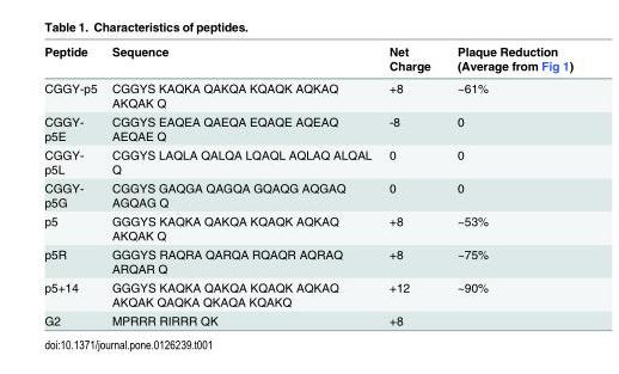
<table><thead><tr><td>Peptide</td><td>Sequence</td><td>Net Charge</td><td>Plaque Reduction (Average from Fig 1)</td></tr></thead><tbody><tr><td>CGGY-p5</td><td>CGGYS KAQKA QAKQA KQAQK AQKAQ AKQAK Q</td><td>+8</td><td>~61%</td></tr><tr><td>CGGY- p5E</td><td>CGGYS EAQEA QAEQA EQAQE AQEAQ AEQAE Q</td><td>-8</td><td>0</td></tr><tr><td>CGGY- p5L</td><td>CGGYS LAQLA QALQA LQAQL AQLAQ ALQAL Q</td><td>0</td><td>0</td></tr><tr><td>CGGY- p5G</td><td>CGGYS GAQGA QAGQA GQAQG AQGAQ AGQAG Q</td><td>0</td><td>0</td></tr><tr><td>p5</td><td>GGGYS KAQKA QAKQA KQAQK AQKAQ AKQAK Q</td><td>+8</td><td>~53%</td></tr><tr><td>p5R</td><td>GGGYS RAQRA QARQA RQAQR AQRAQ ARQAR Q</td><td>+8</td><td>~75%</td></tr><tr><td>p5+14</td><td>GGGYS KAQKA QAKQA KQAQK AQKAQ AKQAK QAQKA QKAQA KQAKQ</td><td>+12</td><td>~90%</td></tr><tr><td>G2</td><td>MPRRR RIRRR QK</td><td>+8</td><td></td></tr></tbody></table>